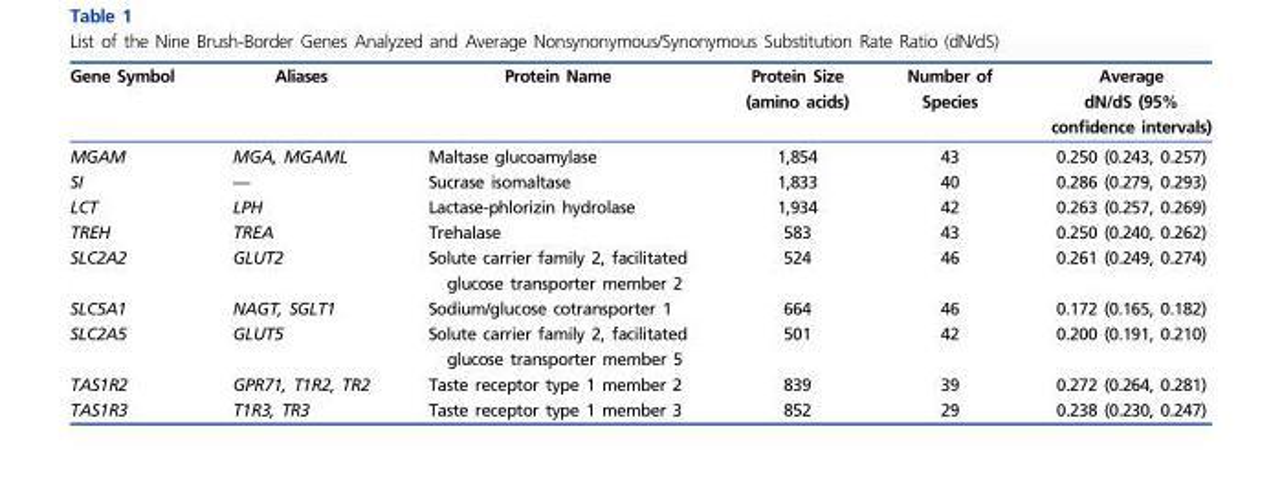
<table><thead><tr><td>Gene Symbol</td><td>Aliases</td><td>Protein Name</td><td>Protein Size (amino acids)</td><td>Number of Species</td><td>Average dN/dS (95% confidence intervals)</td></tr></thead><tbody><tr><td>MGAM</td><td>MGA, MGAML</td><td>Maltase glucoamylase</td><td>1,854</td><td>43</td><td>0.250 (0.243, 0.257)</td></tr><tr><td>SI</td><td>—</td><td>Sucrase isomaltase</td><td>1,833</td><td>40</td><td>0.286 (0.279, 0.293)</td></tr><tr><td>LCT</td><td>LPH</td><td>Lactase-phlorizin hydrolase</td><td>1,934</td><td>42</td><td>0.263 (0.257, 0.269)</td></tr><tr><td>TREH</td><td>TREA</td><td>Trehalase</td><td>583</td><td>43</td><td>0.250 (0.240, 0.262)</td></tr><tr><td>SLC2A2</td><td>GLUT2</td><td>Solute carrier family 2, facilitated glucose transporter member 2</td><td>524</td><td>46</td><td>0.261 (0.249, 0.274)</td></tr><tr><td>SLC5A1</td><td>NAGT, SGLT1</td><td>Sodium/glucose cotransporter 1</td><td>664</td><td>46</td><td>0.172 (0.165, 0.182)</td></tr><tr><td>SLC2A5</td><td>GLUT5</td><td>Solute carrier family 2, facilitated glucose transporter member 5</td><td>501</td><td>42</td><td>0.200 (0.191, 0.210)</td></tr><tr><td>TAS1R2</td><td>GPR71, T1R2, TR2</td><td>Taste receptor type 1 member 2</td><td>839</td><td>39</td><td>0.272 (0.264, 0.281)</td></tr><tr><td>TAS1R3</td><td>T1R3, TR3</td><td>Taste receptor type 1 member 3</td><td>852</td><td>29</td><td>0.238 (0.230, 0.247)</td></tr></tbody></table>